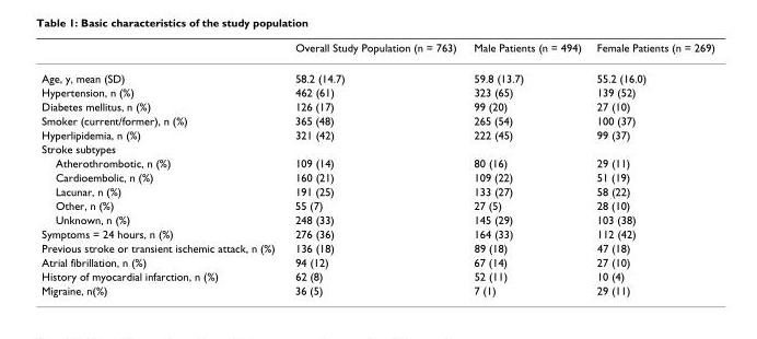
<table><thead><tr><td></td><td>Overall Study Population (n = 763)</td><td>Male Patients (n = 494)</td><td>Female Patients (n = 269)</td></tr></thead><tbody><tr><td>Age, y, mean (SD)</td><td>58.2 (14.7)</td><td>59.8 (13.7)</td><td>55.2 (16.0)</td></tr><tr><td>Hypertension, n (%)</td><td>462 (61)</td><td>323 (65)</td><td>139 (52)</td></tr><tr><td>Diabetes mellitus, n (%)</td><td>126 (17)</td><td>99 (20)</td><td>27 (10)</td></tr><tr><td>Smoker (current/former), n (%)</td><td>365 (48)</td><td>265 (54)</td><td>100 (37)</td></tr><tr><td>Hyperlipidemia, n (%)</td><td>321 (42)</td><td>222 (45)</td><td>99 (37)</td></tr><tr><td colspan="4">Stroke subtypes</td></tr><tr><td>Atherothrombotic, n (%)</td><td>109 (14)</td><td>80 (16)</td><td>29 (11)</td></tr><tr><td>Cardioembolic, n (%)</td><td>160 (21)</td><td>109 (22)</td><td>51 (19)</td></tr><tr><td>Lacunar, n (%)</td><td>191 (25)</td><td>133 (27)</td><td>58 (22)</td></tr><tr><td>Other, n (%)</td><td>55 (7)</td><td>27 (5)</td><td>28 (10)</td></tr><tr><td>Unknown, n (%)</td><td>248 (33)</td><td>145 (29)</td><td>103 (38)</td></tr><tr><td>Symptoms = 24 hours, n (%)</td><td>276 (36)</td><td>164 (33)</td><td>112 (42)</td></tr><tr><td>Previous stroke or transient ischemic attack, n (%)</td><td>136 (18)</td><td>89 (18)</td><td>47 (18)</td></tr><tr><td>Atrial fibrillation, n (%)</td><td>94 (12)</td><td>67 (14)</td><td>27 (10)</td></tr><tr><td>History of myocardial infarction, n (%)</td><td>62 (8)</td><td>52 (11)</td><td>10 (4)</td></tr><tr><td>Migraine, n(%)</td><td>36 (5)</td><td>7 (1)</td><td>29 (11)</td></tr></tbody></table>